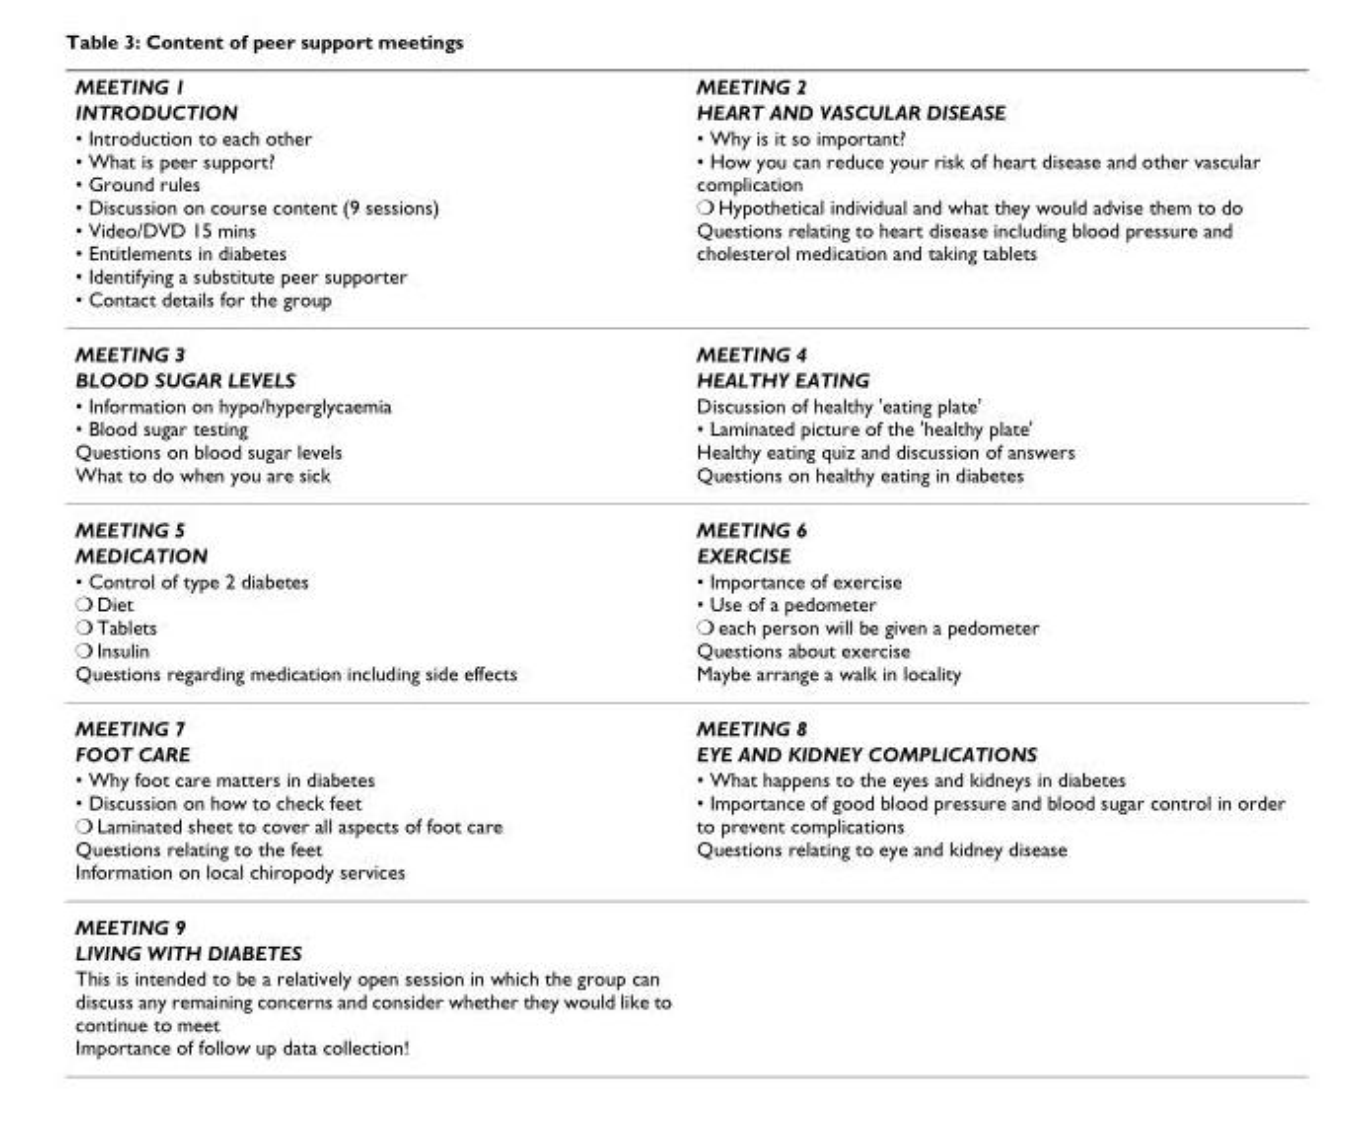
<table><thead><tr><td rowspan="3">MEETING 1 INTRODUCTION • Introduction to each other • What is peer support? • Ground rules • Discussion on course content (9 sessions) • Video/DVD 15 mins • Entitlements in diabetes • Identifying a substitute peer supporter • Contact details for the group</td><td rowspan="3">MEETING 2 HEART AND VASCULAR DISEASE • Why is it so important? • How you can reduce your risk of heart disease and other vascular complication ❍ Hypothetical individual and what they would advise them to do Questions relating to heart disease including blood pressure and cholesterol medication and taking tablets</td></tr><tr></tr><tr></tr></thead><tbody><tr><td>MEETING 3</td><td>MEETING 4</td></tr><tr><td>BLOOD SUGAR LEVELS</td><td>HEALTHY EATING</td></tr><tr><td>• Information on hypo/hyperglycaemia • Blood sugar testing Questions on blood sugar levels What to do when you are sick</td><td>Discussion of healthy &#x27;eating plate&#x27; • Laminated picture of the &#x27;healthy plate&#x27; Healthy eating quiz and discussion of answers Questions on healthy eating in diabetes</td></tr><tr><td>MEETING 5</td><td>MEETING 6</td></tr><tr><td>MEDICATION</td><td>EXERCISE</td></tr><tr><td>• Control of type 2 diabetes ❍ Diet ❍ Tablets ❍ Insulin Questions regarding medication including side effects</td><td>• Importance of exercise • Use of a pedometer ❍ each person will be given a pedometer Questions about exercise Maybe arrange a walk in locality</td></tr><tr><td>MEETING 7</td><td>MEETING 8</td></tr><tr><td>FOOT CARE</td><td>EYE AND KIDNEY COMPLICATIONS</td></tr><tr><td>• Why foot care matters in diabetes • Discussion on how to check feet ❍ Laminated sheet to cover all aspects of foot care Questions relating to the feet Information on local chiropody services</td><td>• What happens to the eyes and kidneys in diabetes • Importance of good blood pressure and blood sugar control in order to prevent complications Questions relating to eye and kidney disease</td></tr><tr><td colspan="2">MEETING 9</td></tr><tr><td colspan="2">LIVING WITH DIABETES</td></tr><tr><td>This is intended to be a relatively open session in which the group can discuss any remaining concerns and consider whether they would like to continue to meet Importance of follow up data collection!</td><td></td></tr></tbody></table>